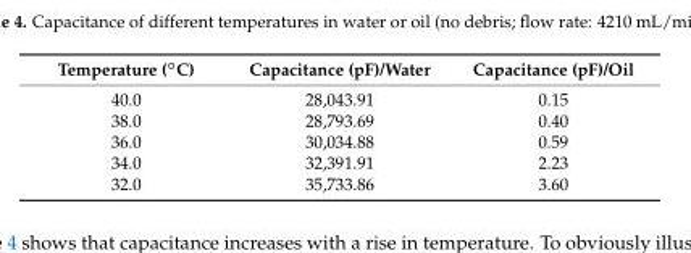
<table><thead><tr><td>Temperature (◦C)</td><td>Capacitance (pF)/Water</td><td>Capacitance (pF)/Oil</td></tr></thead><tbody><tr><td>40.0</td><td>28,043.91</td><td>0.15</td></tr><tr><td>38.0</td><td>28,793.69</td><td>0.40</td></tr><tr><td>36.0</td><td>30,034.88</td><td>0.59</td></tr><tr><td>34.0</td><td>32,391.91</td><td>2.23</td></tr><tr><td>32.0</td><td>35,733.86</td><td>3.60</td></tr></tbody></table>